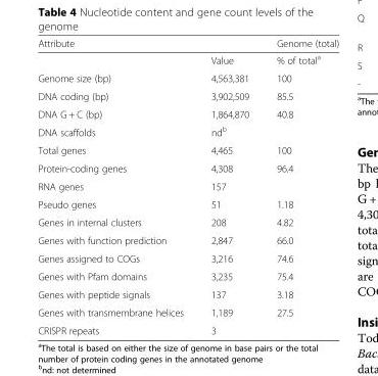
<table><thead><tr><td>Attribute</td><td></td><td>Genome (total)</td></tr></thead><tbody><tr><td></td><td>Value</td><td>% of total<sup>a</sup></td></tr><tr><td>Genome size (bp)</td><td>4,563,381</td><td>100</td></tr><tr><td>DNA coding (bp)</td><td>3,902,509</td><td>85.5</td></tr><tr><td>DNA G + C (bp)</td><td>1,864,870</td><td>40.8</td></tr><tr><td>DNA scaffolds</td><td>nd<sup>b</sup></td><td></td></tr><tr><td>Total genes</td><td>4,465</td><td>100</td></tr><tr><td>Protein-coding genes</td><td>4,308</td><td>96.4</td></tr><tr><td>RNA genes</td><td>157</td><td></td></tr><tr><td>Pseudo genes</td><td>51</td><td>1.18</td></tr><tr><td>Genes in internal clusters</td><td>208</td><td>4.82</td></tr><tr><td>Genes with function prediction</td><td>2,847</td><td>66.0</td></tr><tr><td>Genes assigned to COGs</td><td>3,216</td><td>74.6</td></tr><tr><td>Genes with Pfam domains</td><td>3,235</td><td>75.4</td></tr><tr><td>Genes with peptide signals</td><td>137</td><td>3.18</td></tr><tr><td>Genes with transmembrane helices</td><td>1,189</td><td>27.5</td></tr><tr><td>CRISPR repeats</td><td>3</td><td></td></tr></tbody></table>